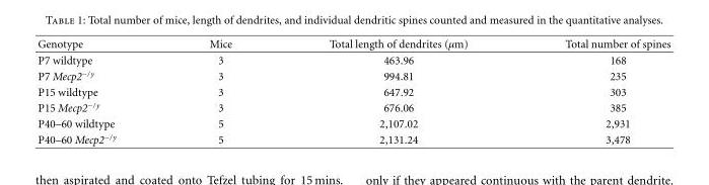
<table><thead><tr><td>Genotype</td><td>Mice</td><td>Total length of dendrites (µm)</td><td>Total number of spines</td></tr></thead><tbody><tr><td>P7 wildtype</td><td>3</td><td>463.96</td><td>168</td></tr><tr><td>P7 Mecp2<sup>−/y</sup></td><td>3</td><td>994.81</td><td>235</td></tr><tr><td>P15 wildtype</td><td>3</td><td>647.92</td><td>303</td></tr><tr><td>P15 Mecp2<sup>−/y</sup></td><td>3</td><td>676.06</td><td>385</td></tr><tr><td>P40–60 wildtype</td><td>5</td><td>2,107.02</td><td>2,931</td></tr><tr><td>P40–60 Mecp2<sup>−/y</sup></td><td>5</td><td>2,131.24</td><td>3,478</td></tr></tbody></table>